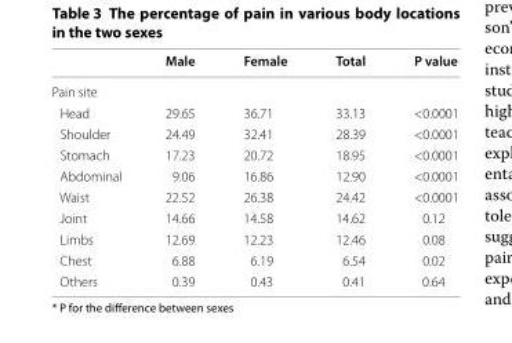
<table><thead><tr><td></td><td>Male</td><td>Female</td><td>Total</td><td>P value</td></tr></thead><tbody><tr><td colspan="5">Pain site</td></tr><tr><td>Head</td><td>29.65</td><td>36.71</td><td>33.13</td><td>&lt;0.0001</td></tr><tr><td>Shoulder</td><td>24.49</td><td>32.41</td><td>28.39</td><td>&lt;0.0001</td></tr><tr><td>Stomach</td><td>17.23</td><td>20.72</td><td>18.95</td><td>&lt;0.0001</td></tr><tr><td>Abdominal</td><td>9.06</td><td>16.86</td><td>12.90</td><td>&lt;0.0001</td></tr><tr><td>Waist</td><td>22.52</td><td>26.38</td><td>24.42</td><td>&lt;0.0001</td></tr><tr><td>Joint</td><td>14.66</td><td>14.58</td><td>14.62</td><td>0.12</td></tr><tr><td>Limbs</td><td>12.69</td><td>12.23</td><td>12.46</td><td>0.08</td></tr><tr><td>Chest</td><td>6.88</td><td>6.19</td><td>6.54</td><td>0.02</td></tr><tr><td>Others</td><td>0.39</td><td>0.43</td><td>0.41</td><td>0.64</td></tr></tbody></table>